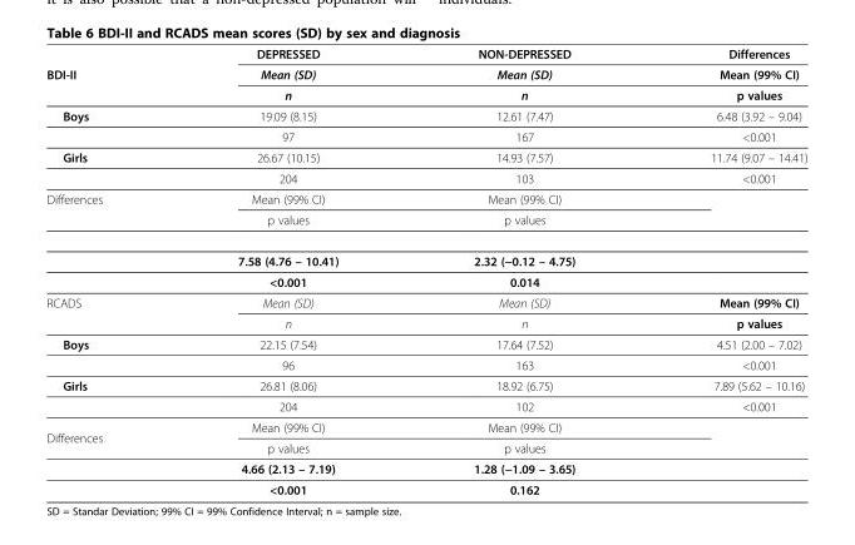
<table><thead><tr><td></td><td>DEPRESSED</td><td>NON-DEPRESSED</td><td>Differences</td></tr></thead><tbody><tr><td rowspan="2">BDI-II</td><td>Mean (SD)</td><td>Mean (SD)</td><td>Mean (99% CI)</td></tr><tr><td>n</td><td>n</td><td>p values</td></tr><tr><td rowspan="2">Boys</td><td>19.09 (8.15)</td><td>12.61 (7.47)</td><td>6.48 (3.92 – 9.04)</td></tr><tr><td>97</td><td>167</td><td>&lt;0.001</td></tr><tr><td rowspan="2">Girls</td><td>26.67 (10.15)</td><td>14.93 (7.57)</td><td>11.74 (9.07 – 14.41)</td></tr><tr><td>204</td><td>103</td><td>&lt;0.001</td></tr><tr><td rowspan="4">Differences</td><td>Mean (99% CI)</td><td>Mean (99% CI)</td><td rowspan="2"></td></tr><tr><td>p values</td><td>p values</td></tr><tr><td>7.58 (4.76 – 10.41)</td><td>2.32 (−0.12 – 4.75)</td><td></td></tr><tr><td>&lt;0.001</td><td>0.014</td><td></td></tr><tr><td rowspan="2">RCADS</td><td>Mean (SD)</td><td>Mean (SD)</td><td>Mean (99% CI)</td></tr><tr><td>n</td><td>n</td><td>p values</td></tr><tr><td rowspan="2">Boys</td><td>22.15 (7.54)</td><td>17.64 (7.52)</td><td>4.51 (2.00 – 7.02)</td></tr><tr><td>96</td><td>163</td><td>&lt;0.001</td></tr><tr><td rowspan="2">Girls</td><td>26.81 (8.06)</td><td>18.92 (6.75)</td><td>7.89 (5.62 – 10.16)</td></tr><tr><td>204</td><td>102</td><td>&lt;0.001</td></tr><tr><td rowspan="4">Differences</td><td>Mean (99% CI)</td><td>Mean (99% CI)</td><td rowspan="2"></td></tr><tr><td>p values</td><td>p values</td></tr><tr><td>4.66 (2.13 – 7.19)</td><td>1.28 (−1.09 – 3.65)</td><td></td></tr><tr><td>&lt;0.001</td><td>0.162</td><td></td></tr></tbody></table>